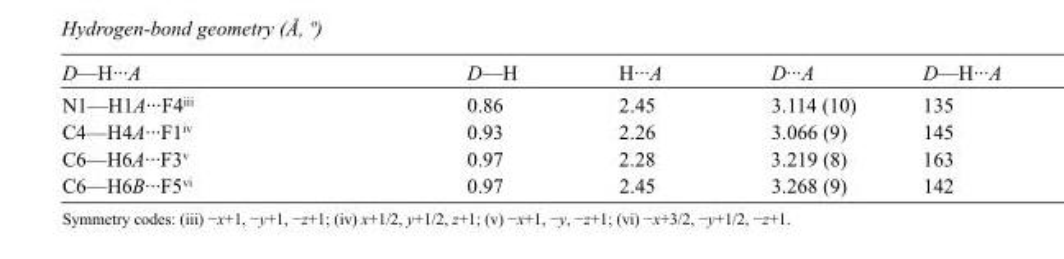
<table><tbody><tr><td>D—H···A</td><td>D—H</td><td>H···A</td><td>D···A</td><td>D—H···A</td></tr><tr><td>N1—H1A···F4<sup>iii</sup></td><td>0.86</td><td>2.45</td><td>3.114 (10)</td><td>135</td></tr><tr><td>C4—H4A···F1<sup>iv</sup></td><td>0.93</td><td>2.26</td><td>3.066 (9)</td><td>145</td></tr><tr><td>C6—H6A···F3<sup>v</sup></td><td>0.97</td><td>2.28</td><td>3.219 (8)</td><td>163</td></tr><tr><td>C6—H6B···F5<sup>vi</sup></td><td>0.97</td><td>2.45</td><td>3.268 (9)</td><td>142</td></tr></tbody></table>